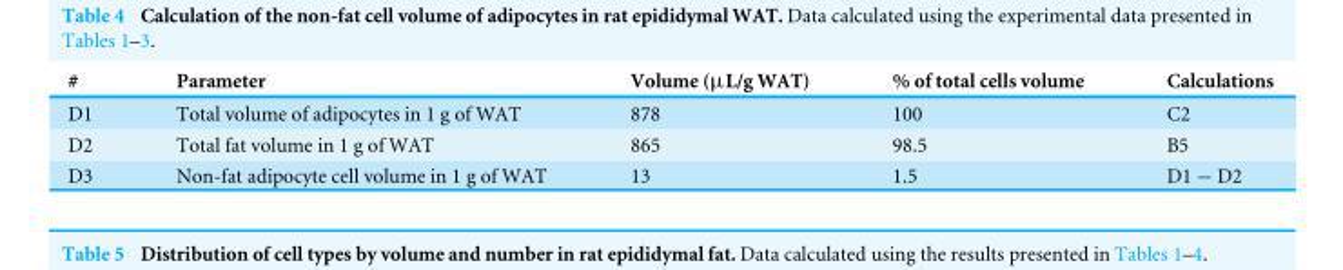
<table><thead><tr><td>#</td><td>Parameter</td><td>Volume (µL/g WAT)</td><td>% of total cells volume</td><td>Calculations</td></tr></thead><tbody><tr><td>D1</td><td>Total volume of adipocytes in 1 g of WAT</td><td>878</td><td>100</td><td>C2</td></tr><tr><td>D2</td><td>Total fat volume in 1 g of WAT</td><td>865</td><td>98.5</td><td>B5</td></tr><tr><td>D3</td><td>Non-fat adipocyte cell volume in 1 g of WAT</td><td>13</td><td>1.5</td><td>D1 − D2</td></tr></tbody></table>